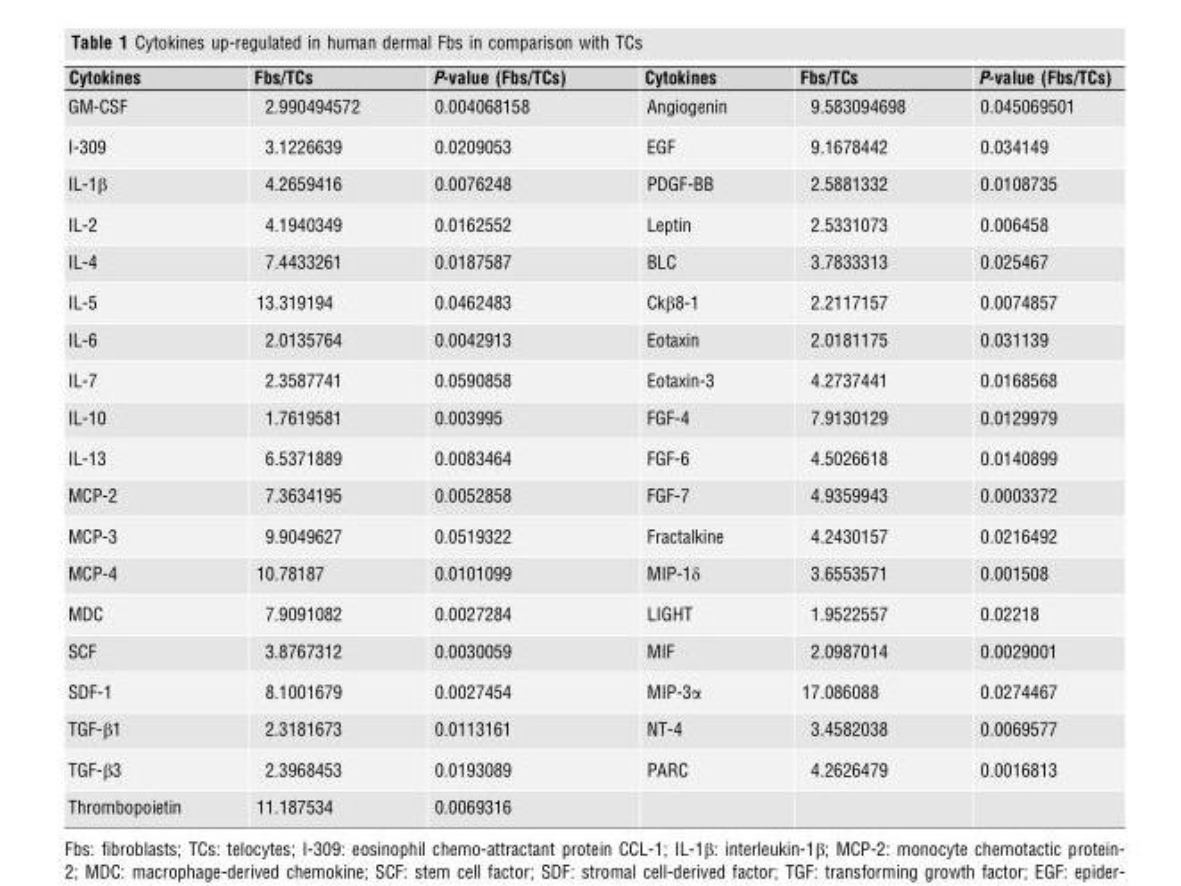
<table><thead><tr><td>Cytokines</td><td>Fbs/TCs</td><td>P-value (Fbs/TCs)</td><td>Cytokines</td><td>Fbs/TCs</td><td>P-value (Fbs/TCs)</td></tr></thead><tbody><tr><td>GM-CSF</td><td>2.990494572</td><td>0.004068158</td><td>Angiogenin</td><td>9.583094698</td><td>0.045069501</td></tr><tr><td>I-309</td><td>3.1226639</td><td>0.0209053</td><td>EGF</td><td>9.1678442</td><td>0.034149</td></tr><tr><td>IL-1β</td><td>4.2659416</td><td>0.0076248</td><td>PDGF-BB</td><td>2.5881332</td><td>0.0108735</td></tr><tr><td>IL-2</td><td>4.1940349</td><td>0.0162552</td><td>Leptin</td><td>2.5331073</td><td>0.006458</td></tr><tr><td>IL-4</td><td>7.4433261</td><td>0.0187587</td><td>BLC</td><td>3.7833313</td><td>0.025467</td></tr><tr><td>IL-5</td><td>13.319194</td><td>0.0462483</td><td>Ckβ8-1</td><td>2.2117157</td><td>0.0074857</td></tr><tr><td>IL-6</td><td>2.0135764</td><td>0.0042913</td><td>Eotaxin</td><td>2.0181175</td><td>0.031139</td></tr><tr><td>IL-7</td><td>2.3587741</td><td>0.0590858</td><td>Eotaxin-3</td><td>4.2737441</td><td>0.0168568</td></tr><tr><td>IL-10</td><td>1.7619581</td><td>0.003995</td><td>FGF-4</td><td>7.9130129</td><td>0.0129979</td></tr><tr><td>IL-13</td><td>6.5371889</td><td>0.0083464</td><td>FGF-6</td><td>4.5026618</td><td>0.0140899</td></tr><tr><td>MCP-2</td><td>7.3634195</td><td>0.0052858</td><td>FGF-7</td><td>4.9359943</td><td>0.0003372</td></tr><tr><td>MCP-3</td><td>9.9049627</td><td>0.0519322</td><td>Fractalkine</td><td>4.2430157</td><td>0.0216492</td></tr><tr><td>MCP-4</td><td>10.78187</td><td>0.0101099</td><td>MIP-1δ</td><td>3.6553571</td><td>0.001508</td></tr><tr><td>MDC</td><td>7.9091082</td><td>0.0027284</td><td>LIGHT</td><td>1.9522557</td><td>0.02218</td></tr><tr><td>SCF</td><td>3.8767312</td><td>0.0030059</td><td>MIF</td><td>2.0987014</td><td>0.0029001</td></tr><tr><td>SDF-1</td><td>8.1001679</td><td>0.0027454</td><td>MIP-3α</td><td>17.086088</td><td>0.0274467</td></tr><tr><td>TGF-β1</td><td>2.3181673</td><td>0.0113161</td><td>NT-4</td><td>3.4582038</td><td>0.0069577</td></tr><tr><td>TGF-β3</td><td>2.3968453</td><td>0.0193089</td><td>PARC</td><td>4.2626479</td><td>0.0016813</td></tr><tr><td>Thrombopoietin</td><td>11.187534</td><td>0.0069316</td><td></td><td></td><td></td></tr></tbody></table>